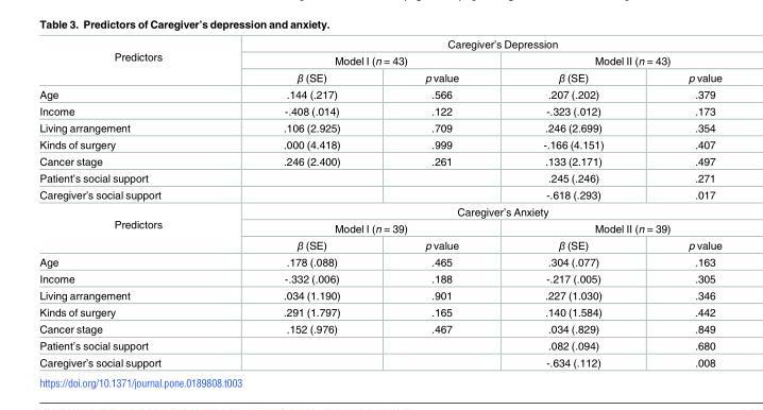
<table><tbody><tr><td rowspan="3">Predictors</td><td colspan="4">Caregiver’s Depression</td></tr><tr><td colspan="2">Model I (n = 43)</td><td colspan="2">Model II (n = 43)</td></tr><tr><td>β (SE)</td><td>p value</td><td>β (SE)</td><td>p value</td></tr><tr><td>Age</td><td>.144 (.217)</td><td>.566</td><td>.207 (.202)</td><td>.379</td></tr><tr><td>Income</td><td>-.408 (.014)</td><td>.122</td><td>-.323 (.012)</td><td>.173</td></tr><tr><td>Living arrangement</td><td>.106 (2.925)</td><td>.709</td><td>.246 (2.699)</td><td>.354</td></tr><tr><td>Kinds of surgery</td><td>.000 (4.418)</td><td>.999</td><td>-.166 (4.151)</td><td>.407</td></tr><tr><td>Cancer stage</td><td>.246 (2.400)</td><td>.261</td><td>.133 (2.171)</td><td>.497</td></tr><tr><td>Patient’s social support</td><td></td><td></td><td>.245 (.246)</td><td>.271</td></tr><tr><td>Caregiver’s social support</td><td></td><td></td><td>-.618 (.293)</td><td>.017</td></tr><tr><td rowspan="3">Predictors</td><td colspan="4">Caregiver’s Anxiety</td></tr><tr><td colspan="2">Model I (n = 39)</td><td colspan="2">Model II (n = 39)</td></tr><tr><td>β (SE)</td><td>p value</td><td>β (SE)</td><td>p value</td></tr><tr><td>Age</td><td>.178 (.088)</td><td>.465</td><td>.304 (.077)</td><td>.163</td></tr><tr><td>Income</td><td>-.332 (.006)</td><td>.188</td><td>-.217 (.005)</td><td>.305</td></tr><tr><td>Living arrangement</td><td>.034 (1.190)</td><td>.901</td><td>.227 (1.030)</td><td>.346</td></tr><tr><td>Kinds of surgery</td><td>.291 (1.797)</td><td>.165</td><td>.140 (1.584)</td><td>.442</td></tr><tr><td>Cancer stage</td><td>.152 (.976)</td><td>.467</td><td>.034 (.829)</td><td>.849</td></tr><tr><td>Patient’s social support</td><td></td><td></td><td>.082 (.094)</td><td>.680</td></tr><tr><td>Caregiver’s social support</td><td></td><td></td><td>-.634 (.112)</td><td>.008</td></tr></tbody></table>